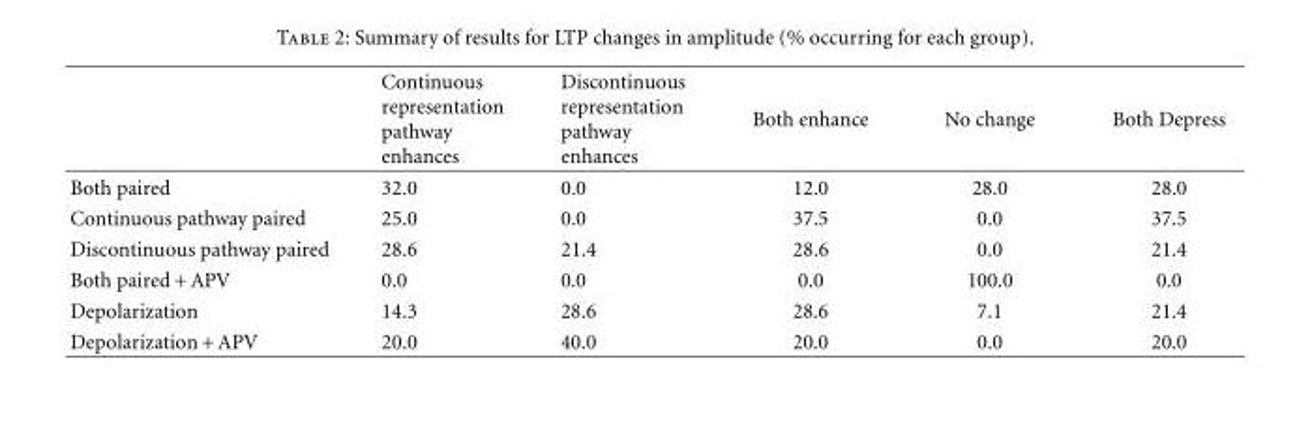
<table><thead><tr><td></td><td>Continuous representation pathway enhances</td><td>Discontinuous representation pathway enhances</td><td>Both enhance</td><td>No change</td><td>Both Depress</td></tr></thead><tbody><tr><td>Both paired</td><td>32.0</td><td>0.0</td><td>12.0</td><td>28.0</td><td>28.0</td></tr><tr><td>Continuous pathway paired</td><td>25.0</td><td>0.0</td><td>37.5</td><td>0.0</td><td>37.5</td></tr><tr><td>Discontinuous pathway paired</td><td>28.6</td><td>21.4</td><td>28.6</td><td>0.0</td><td>21.4</td></tr><tr><td>Both paired + APV</td><td>0.0</td><td>0.0</td><td>0.0</td><td>100.0</td><td>0.0</td></tr><tr><td>Depolarization</td><td>14.3</td><td>28.6</td><td>28.6</td><td>7.1</td><td>21.4</td></tr><tr><td>Depolarization + APV</td><td>20.0</td><td>40.0</td><td>20.0</td><td>0.0</td><td>20.0</td></tr></tbody></table>